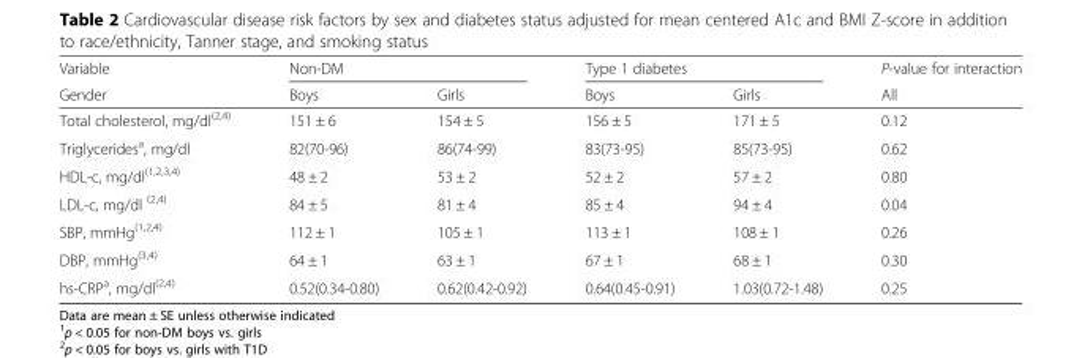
<table><thead><tr><td rowspan="2">Variable Gender</td><td colspan="2">Non-DM</td><td colspan="2">Type 1 diabetes</td><td rowspan="2">P-value for interaction All</td></tr><tr><td>Boys</td><td>Girls</td><td>Boys</td><td>Girls</td></tr></thead><tbody><tr><td>Total cholesterol, mg/dl<sup>(2,4)</sup></td><td>151 ± 6</td><td>154 ± 5</td><td>156 ± 5</td><td>171 ± 5</td><td>0.12</td></tr><tr><td>Triglycerides<sup>a</sup>, mg/dl</td><td>82(70-96)</td><td>86(74-99)</td><td>83(73-95)</td><td>85(73-95)</td><td>0.62</td></tr><tr><td>HDL-c, mg/dl<sup>(1,2,3,4)</sup></td><td>48 ± 2</td><td>53 ± 2</td><td>52 ± 2</td><td>57 ± 2</td><td>0.80</td></tr><tr><td>LDL-c, mg/dl <sup>(2,4)</sup></td><td>84 ± 5</td><td>81 ± 4</td><td>85 ± 4</td><td>94 ± 4</td><td>0.04</td></tr><tr><td>SBP, mmHg<sup>(1,2,4)</sup></td><td>112 ± 1</td><td>105 ± 1</td><td>113 ± 1</td><td>108 ± 1</td><td>0.26</td></tr><tr><td>DBP, mmHg<sup>(3,4)</sup></td><td>64 ± 1</td><td>63 ± 1</td><td>67 ± 1</td><td>68 ± 1</td><td>0.30</td></tr><tr><td>hs-CRP<sup>a</sup>, mg/dl<sup>(2,4)</sup></td><td>0.52(0.34-0.80)</td><td>0.62(0.42-0.92)</td><td>0.64(0.45-0.91)</td><td>1.03(0.72-1.48)</td><td>0.25</td></tr></tbody></table>